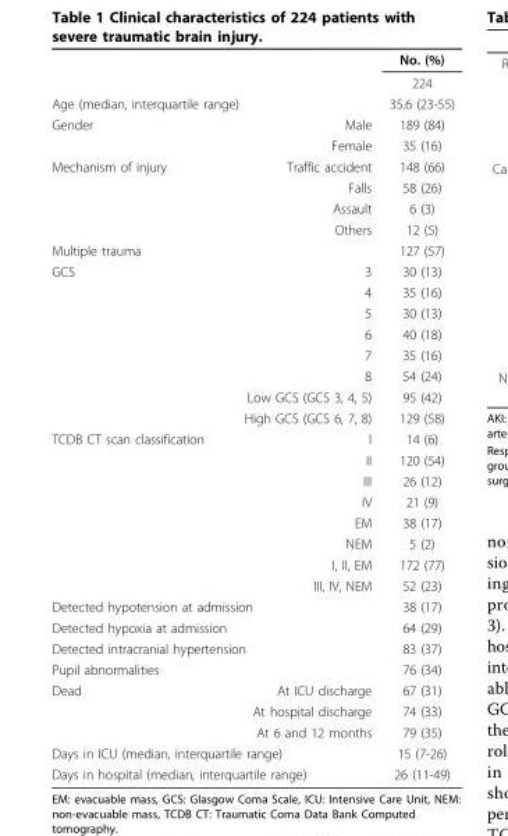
<table><thead><tr><td></td><td></td><td>No. (%)</td></tr></thead><tbody><tr><td></td><td></td><td>224</td></tr><tr><td colspan="2">Age (median, interquartile range)</td><td>35.6 (23-55)</td></tr><tr><td rowspan="2">Gender</td><td>Male</td><td>189 (84)</td></tr><tr><td>Female</td><td>35 (16)</td></tr><tr><td rowspan="4">Mechanism of injury</td><td>Traffic accident</td><td>148 (66)</td></tr><tr><td>Falls</td><td>58 (26)</td></tr><tr><td>Assault</td><td>6 (3)</td></tr><tr><td>Others</td><td>12 (5)</td></tr><tr><td colspan="2">Multiple trauma</td><td>127 (57)</td></tr><tr><td rowspan="8">GCS</td><td>3</td><td>30 (13)</td></tr><tr><td>4</td><td>35 (16)</td></tr><tr><td>5</td><td>30 (13)</td></tr><tr><td>6</td><td>40 (18)</td></tr><tr><td>7</td><td>35 (16)</td></tr><tr><td>8</td><td>54 (24)</td></tr><tr><td>Low GCS (GCS 3, 4, 5)</td><td>95 (42)</td></tr><tr><td>High GCS (GCS 6, 7, 8)</td><td>129 (58)</td></tr><tr><td rowspan="8">TCDB CT scan classification</td><td>I</td><td>14 (6)</td></tr><tr><td>II</td><td>120 (54)</td></tr><tr><td>III</td><td>26 (12)</td></tr><tr><td>IV</td><td>21 (9)</td></tr><tr><td>EM</td><td>38 (17)</td></tr><tr><td>NEM</td><td>5 (2)</td></tr><tr><td>I, II, EM</td><td>172 (77)</td></tr><tr><td>III, IV, NEM</td><td>52 (23)</td></tr><tr><td colspan="2">Detected hypotension at admission</td><td>38 (17)</td></tr><tr><td colspan="2">Detected hypoxia at admission</td><td>64 (29)</td></tr><tr><td colspan="2">Detected intracranial hypertension</td><td>83 (37)</td></tr><tr><td colspan="2">Pupil abnormalities</td><td>76 (34)</td></tr><tr><td rowspan="3">Dead</td><td>At ICU discharge</td><td>67 (31)</td></tr><tr><td>At hospital discharge</td><td>74 (33)</td></tr><tr><td>At 6 and 12 months</td><td>79 (35)</td></tr><tr><td colspan="2">Days in ICU (median, interquartile range)</td><td>15 (7-26)</td></tr><tr><td colspan="2">Days in hospital (median, interquartile range)</td><td>26 (11-49)</td></tr></tbody></table>